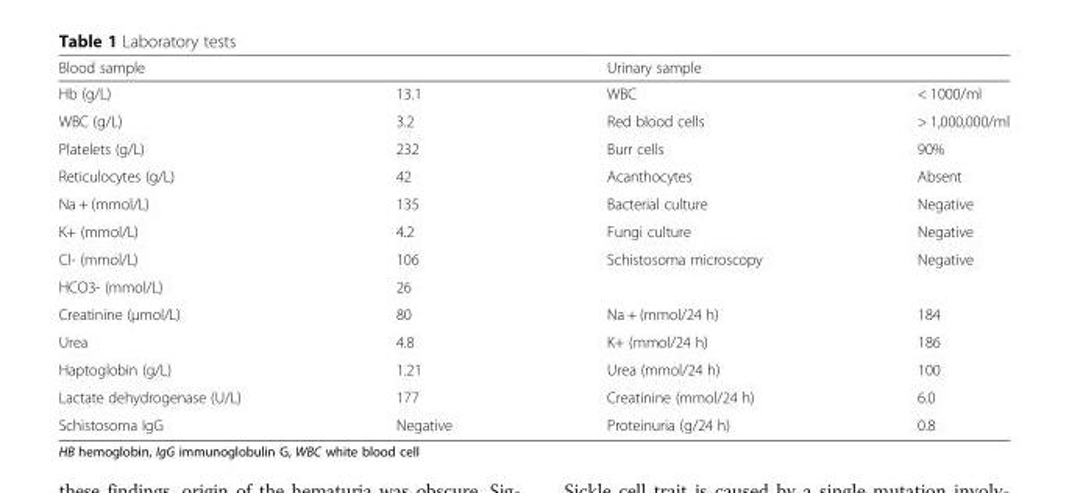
<table><thead><tr><td colspan="2">Blood sample</td><td colspan="2">Urinary sample</td></tr><tr><td>Hb (g/L)</td><td>13.1</td><td>WBC</td><td>&lt; 1000/ml</td></tr></thead><tbody><tr><td>WBC (g/L)</td><td>3.2</td><td>Red blood cells</td><td>&gt; 1,000,000/ml</td></tr><tr><td>Platelets (g/L)</td><td>232</td><td>Burr cells</td><td>90%</td></tr><tr><td>Reticulocytes (g/L)</td><td>42</td><td>Acanthocytes</td><td>Absent</td></tr><tr><td>Na + (mmol/L)</td><td>135</td><td>Bacterial culture</td><td>Negative</td></tr><tr><td>K+ (mmol/L)</td><td>4.2</td><td>Fungi culture</td><td>Negative</td></tr><tr><td>Cl- (mmol/L)</td><td>106</td><td>Schistosoma microscopy</td><td>Negative</td></tr><tr><td>HCO3- (mmol/L)</td><td>26</td><td></td><td></td></tr><tr><td>Creatinine (μmol/L)</td><td>80</td><td>Na + (mmol/24 h)</td><td>184</td></tr><tr><td>Urea</td><td>4.8</td><td>K+ (mmol/24 h)</td><td>186</td></tr><tr><td>Haptoglobin (g/L)</td><td>1.21</td><td>Urea (mmol/24 h)</td><td>100</td></tr><tr><td>Lactate dehydrogenase (U/L)</td><td>177</td><td>Creatinine (mmol/24 h)</td><td>6.0</td></tr><tr><td>Schistosoma IgG</td><td>Negative</td><td>Proteinuria (g/24 h)</td><td>0.8</td></tr></tbody></table>